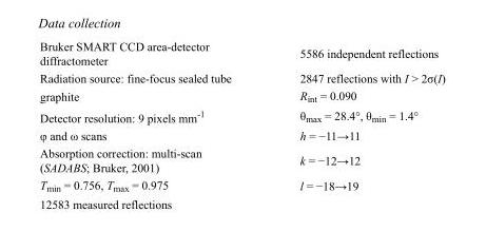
<table><tbody><tr><td>Bruker SMART CCD area-detector diffractometer</td><td>5586 independent reflections</td></tr><tr><td>Radiation source: fine-focus sealed tube</td><td>2847 reflections with I &gt; 2σ(I)</td></tr><tr><td>graphite</td><td>R<sub>int</sub> = 0.090</td></tr><tr><td>Detector resolution: 9 pixels mm<sup>-1</sup></td><td>θ<sub>max</sub> = 28.4°, θ<sub>min</sub> = 1.4°</td></tr><tr><td>φ and ω scans</td><td>h = −11→11</td></tr><tr><td>Absorption correction: multi-scan (SADABS; Bruker, 2001)</td><td>k = −12→12</td></tr><tr><td>T<sub>min</sub> = 0.756, T<sub>max</sub> = 0.975</td><td>l = −18→19</td></tr><tr><td>12583 measured reflections</td><td></td></tr></tbody></table>